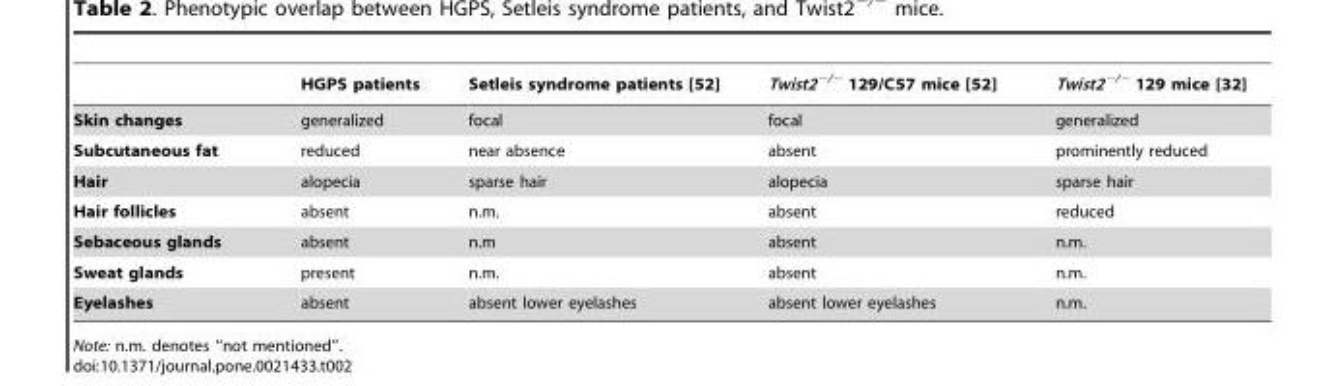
<table><thead><tr><td></td><td>HGPS patients</td><td>Setleis syndrome patients [52]</td><td>Twist2<sup>−/−</sup> 129/C57 mice [52]</td><td>Twist2<sup>−/−</sup> 129 mice [32]</td></tr></thead><tbody><tr><td>Skin changes</td><td>generalized</td><td>focal</td><td>focal</td><td>generalized</td></tr><tr><td>Subcutaneous fat</td><td>reduced</td><td>near absence</td><td>absent</td><td>prominently reduced</td></tr><tr><td>Hair</td><td>alopecia</td><td>sparse hair</td><td>alopecia</td><td>sparse hair</td></tr><tr><td>Hair follicles</td><td>absent</td><td>n.m.</td><td>absent</td><td>reduced</td></tr><tr><td>Sebaceous glands</td><td>absent</td><td>n.m</td><td>absent</td><td>n.m.</td></tr><tr><td>Sweat glands</td><td>present</td><td>n.m.</td><td>absent</td><td>n.m.</td></tr><tr><td>Eyelashes</td><td>absent</td><td>absent lower eyelashes</td><td>absent lower eyelashes</td><td>n.m.</td></tr></tbody></table>